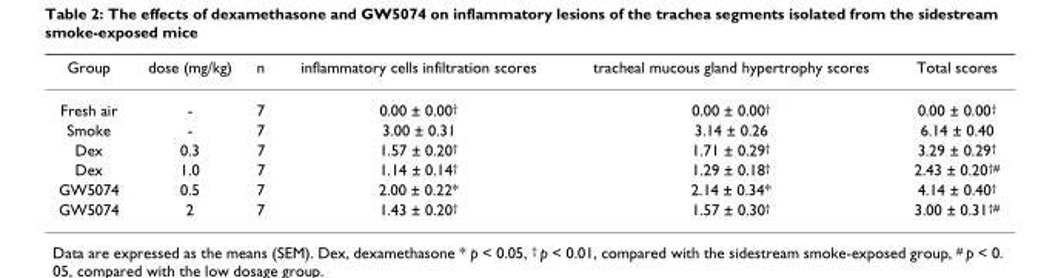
<table><thead><tr><td>Group</td><td>dose (mg/kg)</td><td>n</td><td>inflammatory cells infiltration scores</td><td>tracheal mucous gland hypertrophy scores</td><td>Total scores</td></tr></thead><tbody><tr><td>Fresh air</td><td>-</td><td>7</td><td>0.00 ± 0.00<sup>†</sup></td><td>0.00 ± 0.00<sup>†</sup></td><td>0.00 ± 0.00<sup>†</sup></td></tr><tr><td>Smoke</td><td>-</td><td>7</td><td>3.00 ± 0.31</td><td>3.14 ± 0.26</td><td>6.14 ± 0.40</td></tr><tr><td>Dex</td><td>0.3</td><td>7</td><td>1.57 ± 0.20<sup>†</sup></td><td>1.71 ± 0.29<sup>†</sup></td><td>3.29 ± 0.29<sup>†</sup></td></tr><tr><td>Dex</td><td>1.0</td><td>7</td><td>1.14 ± 0.14<sup>†</sup></td><td>1.29 ± 0.18<sup>†</sup></td><td>2.43 ± 0.20<sup>†#</sup></td></tr><tr><td>GW5074</td><td>0.5</td><td>7</td><td>2.00 ± 0.22*</td><td>2.14 ± 0.34*</td><td>4.14 ± 0.40<sup>†</sup></td></tr><tr><td>GW5074</td><td>2</td><td>7</td><td>1.43 ± 0.20<sup>†</sup></td><td>1.57 ± 0.30<sup>†</sup></td><td>3.00 ± 0.31<sup>†#</sup></td></tr></tbody></table>